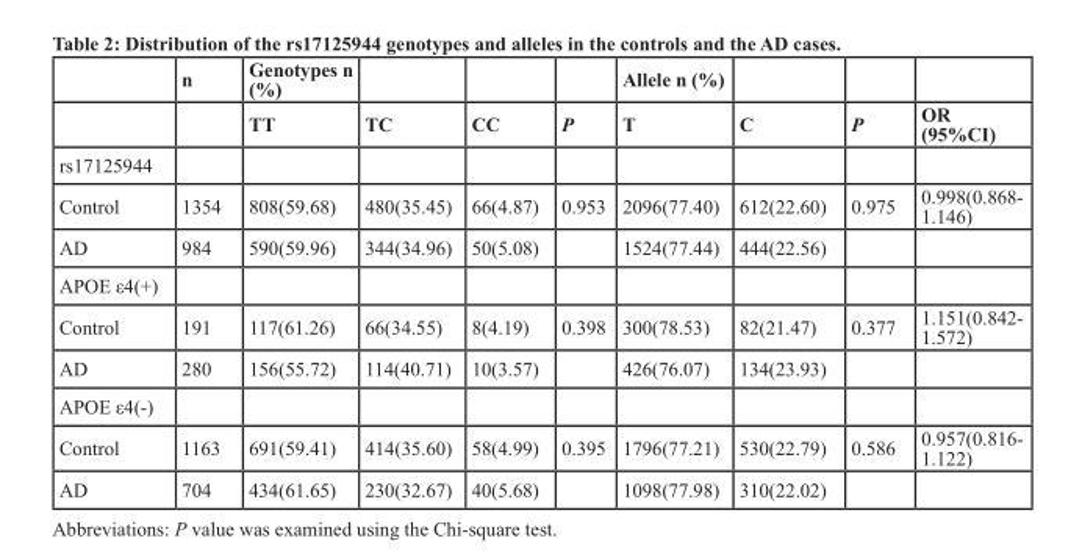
<table><thead><tr><td rowspan="2"></td><td rowspan="2">n</td><td rowspan="2">Genotypes n (%) TT</td><td rowspan="2">TC</td><td rowspan="2">CC</td><td rowspan="2">P</td><td rowspan="2">Allele n (%) T</td><td rowspan="2">C</td><td rowspan="2">P</td><td rowspan="2">OR (95%CI)</td></tr><tr></tr></thead><tbody><tr><td colspan="10">rs17125944</td></tr><tr><td>Control</td><td>1354</td><td>808(59.68)</td><td>480(35.45)</td><td>66(4.87)</td><td>0.953</td><td>2096(77.40)</td><td>612(22.60)</td><td>0.975</td><td>0.998(0.868- 1.146)</td></tr><tr><td>AD</td><td>984</td><td>590(59.96)</td><td>344(34.96)</td><td>50(5.08)</td><td></td><td>1524(77.44)</td><td>444(22.56)</td><td></td><td></td></tr><tr><td colspan="10">APOE ε4(+)</td></tr><tr><td>Control</td><td>191</td><td>117(61.26)</td><td>66(34.55)</td><td>8(4.19)</td><td>0.398</td><td>300(78.53)</td><td>82(21.47)</td><td>0.377</td><td>1.151(0.842- 1.572)</td></tr><tr><td>AD</td><td>280</td><td>156(55.72)</td><td>114(40.71)</td><td>10(3.57)</td><td></td><td>426(76.07)</td><td>134(23.93)</td><td></td><td></td></tr><tr><td colspan="10">APOE ε4(-)</td></tr><tr><td>Control</td><td>1163</td><td>691(59.41)</td><td>414(35.60)</td><td>58(4.99)</td><td>0.395</td><td>1796(77.21)</td><td>530(22.79)</td><td>0.586</td><td>0.957(0.816- 1.122)</td></tr><tr><td>AD</td><td>704</td><td>434(61.65)</td><td>230(32.67)</td><td>40(5.68)</td><td></td><td>1098(77.98)</td><td>310(22.02)</td><td></td><td></td></tr></tbody></table>